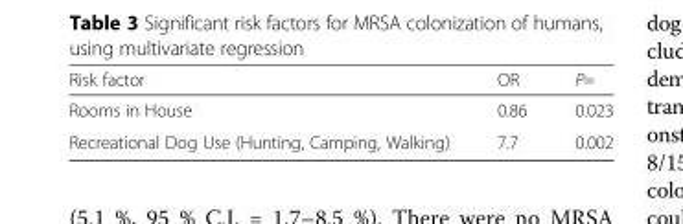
<table><thead><tr><td>Risk factor</td><td>OR</td><td>P=</td></tr></thead><tbody><tr><td>Rooms in House</td><td>0.86</td><td>0.023</td></tr><tr><td>Recreational Dog Use (Hunting, Camping, Walking)</td><td>7.7</td><td>0.002</td></tr></tbody></table>